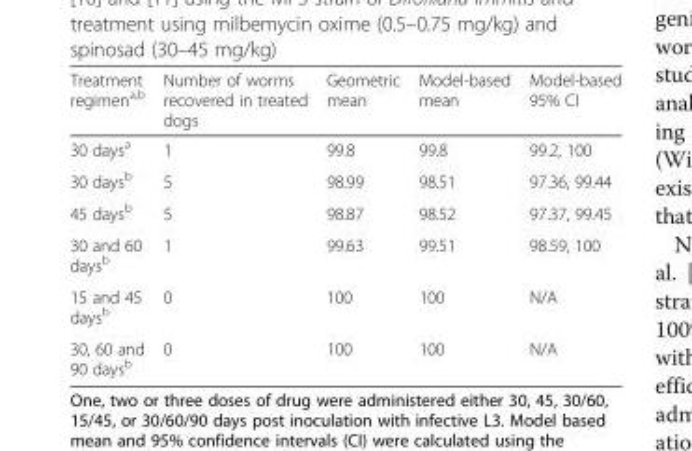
<table><thead><tr><td>Treatment regimen<sup>a,b</sup></td><td>Number of worms recovered in treated dogs</td><td>Geometric mean</td><td>Model-based mean</td><td>Model-based 95% CI</td></tr></thead><tbody><tr><td>30 days<sup>a</sup></td><td>1</td><td>99.8</td><td>99.8</td><td>99.2, 100</td></tr><tr><td>30 days<sup>b</sup></td><td>5</td><td>98.99</td><td>98.51</td><td>97.36, 99.44</td></tr><tr><td>45 days<sup>b</sup></td><td>5</td><td>98.87</td><td>98.52</td><td>97.37, 99.45</td></tr><tr><td>30 and 60 days<sup>b</sup></td><td>1</td><td>99.63</td><td>99.51</td><td>98.59, 100</td></tr><tr><td>15 and 45 days<sup>b</sup></td><td>0</td><td>100</td><td>100</td><td>N/A</td></tr><tr><td>30, 60 and 90 days<sup>b</sup></td><td>0</td><td>100</td><td>100</td><td>N/A</td></tr></tbody></table>